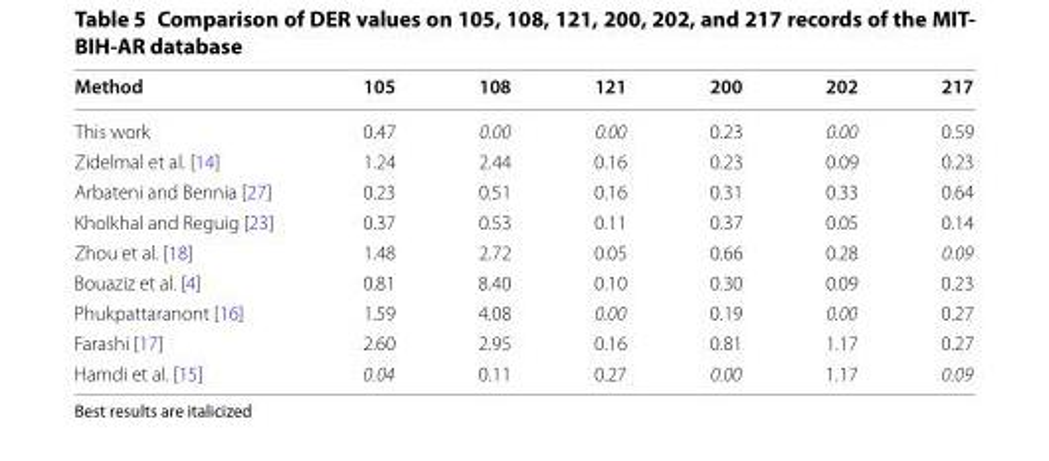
<table><thead><tr><td>Method</td><td>105</td><td>108</td><td>121</td><td>200</td><td>202</td><td>217</td></tr></thead><tbody><tr><td>This work</td><td>0.47</td><td>0.00</td><td>0.00</td><td>0.23</td><td>0.00</td><td>0.59</td></tr><tr><td>Zidelmal et al. [14]</td><td>1.24</td><td>2.44</td><td>0.16</td><td>0.23</td><td>0.09</td><td>0.23</td></tr><tr><td>Arbateni and Bennia [27]</td><td>0.23</td><td>0.51</td><td>0.16</td><td>0.31</td><td>0.33</td><td>0.64</td></tr><tr><td>Kholkhal and Reguig [23]</td><td>0.37</td><td>0.53</td><td>0.11</td><td>0.37</td><td>0.05</td><td>0.14</td></tr><tr><td>Zhou et al. [18]</td><td>1.48</td><td>2.72</td><td>0.05</td><td>0.66</td><td>0.28</td><td>0.09</td></tr><tr><td>Bouaziz et al. [4]</td><td>0.81</td><td>8.40</td><td>0.10</td><td>0.30</td><td>0.09</td><td>0.23</td></tr><tr><td>Phukpattaranont [16]</td><td>1.59</td><td>4.08</td><td>0.00</td><td>0.19</td><td>0.00</td><td>0.27</td></tr><tr><td>Farashi [17]</td><td>2.60</td><td>2.95</td><td>0.16</td><td>0.81</td><td>1.17</td><td>0.27</td></tr><tr><td>Hamdi et al. [15]</td><td>0.04</td><td>0.11</td><td>0.27</td><td>0.00</td><td>1.17</td><td>0.09</td></tr></tbody></table>